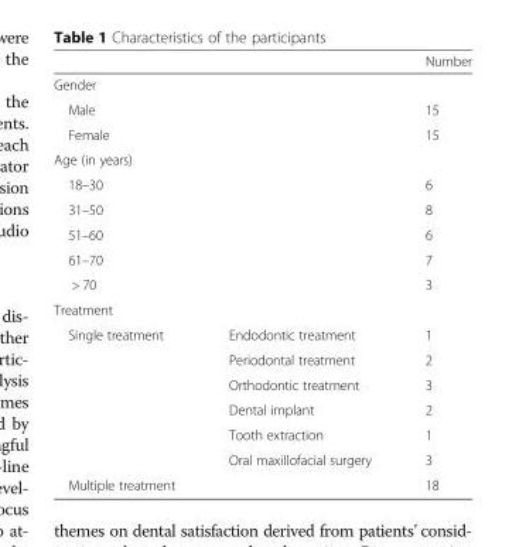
<table><thead><tr><td></td><td></td><td>Number</td></tr></thead><tbody><tr><td colspan="3">Gender</td></tr><tr><td>Male</td><td></td><td>15</td></tr><tr><td>Female</td><td></td><td>15</td></tr><tr><td colspan="3">Age (in years)</td></tr><tr><td>18–30</td><td></td><td>6</td></tr><tr><td>31–50</td><td></td><td>8</td></tr><tr><td>51–60</td><td></td><td>6</td></tr><tr><td>61–70</td><td></td><td>7</td></tr><tr><td>&gt; 70</td><td></td><td>3</td></tr><tr><td colspan="3">Treatment</td></tr><tr><td rowspan="6">Single treatment</td><td>Endodontic treatment</td><td>1</td></tr><tr><td>Periodontal treatment</td><td>2</td></tr><tr><td>Orthodontic treatment</td><td>3</td></tr><tr><td>Dental implant</td><td>2</td></tr><tr><td>Tooth extraction</td><td>1</td></tr><tr><td>Oral maxillofacial surgery</td><td>3</td></tr><tr><td>Multiple treatment</td><td></td><td>18</td></tr></tbody></table>